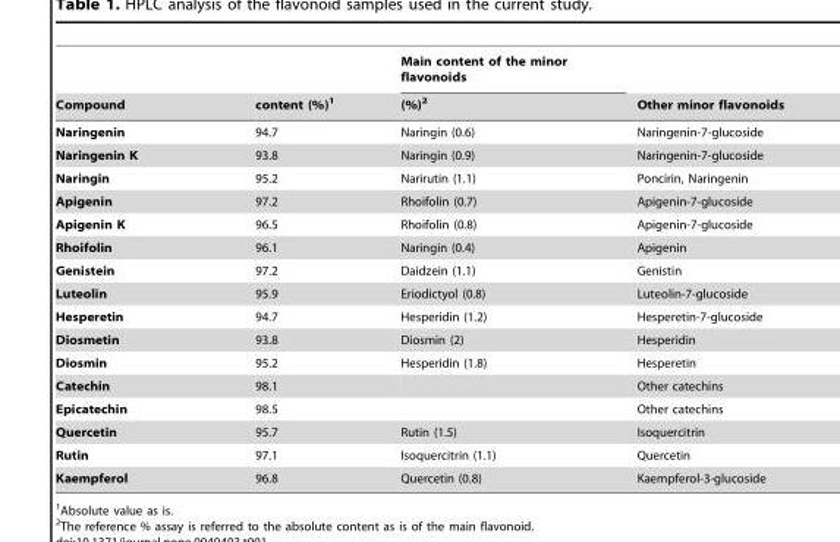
<table><thead><tr><td rowspan="2">Compound</td><td rowspan="2">content (%)<sup>1</sup></td><td rowspan="2">Main content of the minor flavonoids (%)<sup>2</sup></td><td rowspan="2">Other minor flavonoids</td></tr><tr></tr></thead><tbody><tr><td>Naringenin</td><td>94.7</td><td>Naringin (0.6)</td><td>Naringenin-7-glucoside</td></tr><tr><td>Naringenin K</td><td>93.8</td><td>Naringin (0.9)</td><td>Naringenin-7-glucoside</td></tr><tr><td>Naringin</td><td>95.2</td><td>Narirutin (1.1)</td><td>Poncirin, Naringenin</td></tr><tr><td>Apigenin</td><td>97.2</td><td>Rhoifolin (0.7)</td><td>Apigenin-7-glucoside</td></tr><tr><td>Apigenin K</td><td>96.5</td><td>Rhoifolin (0.8)</td><td>Apigenin-7-glucoside</td></tr><tr><td>Rhoifolin</td><td>96.1</td><td>Naringin (0.4)</td><td>Apigenin</td></tr><tr><td>Genistein</td><td>97.2</td><td>Daidzein (1.1)</td><td>Genistin</td></tr><tr><td>Luteolin</td><td>95.9</td><td>Eriodictyol (0.8)</td><td>Luteolin-7-glucoside</td></tr><tr><td>Hesperetin</td><td>94.7</td><td>Hesperidin (1.2)</td><td>Hesperetin-7-glucoside</td></tr><tr><td>Diosmetin</td><td>93.8</td><td>Diosmin (2)</td><td>Hesperidin</td></tr><tr><td>Diosmin</td><td>95.2</td><td>Hesperidin (1.8)</td><td>Hesperetin</td></tr><tr><td>Catechin</td><td>98.1</td><td></td><td>Other catechins</td></tr><tr><td>Epicatechin</td><td>98.5</td><td></td><td>Other catechins</td></tr><tr><td>Quercetin</td><td>95.7</td><td>Rutin (1.5)</td><td>Isoquercitrin</td></tr><tr><td>Rutin</td><td>97.1</td><td>Isoquercitrin (1.1)</td><td>Quercetin</td></tr><tr><td>Kaempferol</td><td>96.8</td><td>Quercetin (0.8)</td><td>Kaempferol-3-glucoside</td></tr></tbody></table>